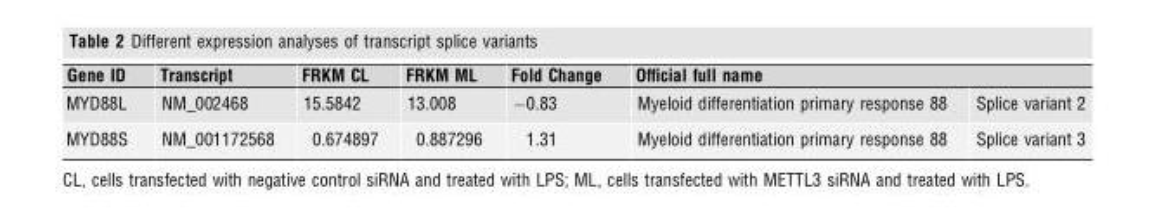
<table><thead><tr><td rowspan="2">Gene ID MYD88L</td><td rowspan="2">Transcript NM_002468</td><td rowspan="2">FRKM CL 15.5842</td><td rowspan="2">FRKM ML 13.008</td><td rowspan="2">Fold Change −0.83</td><td colspan="2">Official full name</td></tr><tr><td>Myeloid differentiation primary response 88</td><td>Splice variant 2</td></tr></thead><tbody><tr><td>MYD88S</td><td>NM_001172568</td><td>0.674897</td><td>0.887296</td><td>1.31</td><td>Myeloid differentiation primary response 88</td><td>Splice variant 3</td></tr></tbody></table>